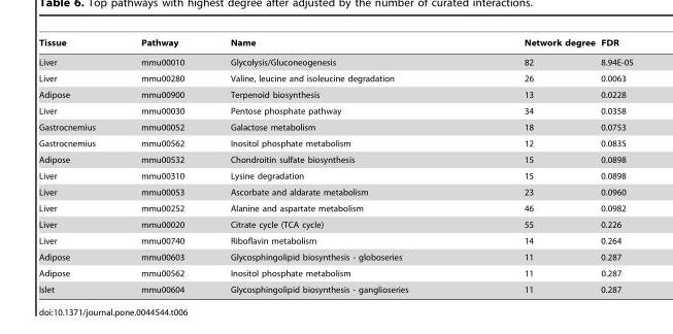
<table><thead><tr><td>Tissue</td><td>Pathway</td><td>Name</td><td>Network degree</td><td>FDR</td></tr></thead><tbody><tr><td>Liver</td><td>mmu00010</td><td>Glycolysis/Gluconeogenesis</td><td>82</td><td>8.94E-05</td></tr><tr><td>Liver</td><td>mmu00280</td><td>Valine, leucine and isoleucine degradation</td><td>26</td><td>0.0063</td></tr><tr><td>Adipose</td><td>mmu00900</td><td>Terpenoid biosynthesis</td><td>13</td><td>0.0228</td></tr><tr><td>Liver</td><td>mmu00030</td><td>Pentose phosphate pathway</td><td>34</td><td>0.0358</td></tr><tr><td>Gastrocnemius</td><td>mmu00052</td><td>Galactose metabolism</td><td>18</td><td>0.0753</td></tr><tr><td>Gastrocnemius</td><td>mmu00562</td><td>Inositol phosphate metabolism</td><td>12</td><td>0.0835</td></tr><tr><td>Adipose</td><td>mmu00532</td><td>Chondroitin sulfate biosynthesis</td><td>15</td><td>0.0898</td></tr><tr><td>Liver</td><td>mmu00310</td><td>Lysine degradation</td><td>15</td><td>0.0898</td></tr><tr><td>Liver</td><td>mmu00053</td><td>Ascorbate and aldarate metabolism</td><td>23</td><td>0.0960</td></tr><tr><td>Liver</td><td>mmu00252</td><td>Alanine and aspartate metabolism</td><td>46</td><td>0.0982</td></tr><tr><td>Liver</td><td>mmu00020</td><td>Citrate cycle (TCA cycle)</td><td>55</td><td>0.226</td></tr><tr><td>Liver</td><td>mmu00740</td><td>Riboflavin metabolism</td><td>14</td><td>0.264</td></tr><tr><td>Adipose</td><td>mmu00603</td><td>Glycosphingolipid biosynthesis - globoseries</td><td>11</td><td>0.287</td></tr><tr><td>Adipose</td><td>mmu00562</td><td>Inositol phosphate metabolism</td><td>11</td><td>0.287</td></tr><tr><td>Islet</td><td>mmu00604</td><td>Glycosphingolipid biosynthesis - ganglioseries</td><td>11</td><td>0.287</td></tr></tbody></table>